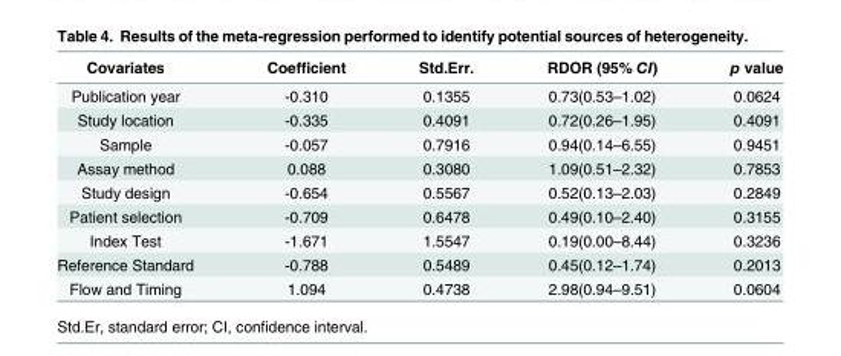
<table><thead><tr><td>Covariates</td><td>Coefficient</td><td>Std.Err.</td><td>RDOR (95% CI)</td><td>p value</td></tr></thead><tbody><tr><td>Publication year</td><td>-0.310</td><td>0.1355</td><td>0.73(0.53–1.02)</td><td>0.0624</td></tr><tr><td>Study location</td><td>-0.335</td><td>0.4091</td><td>0.72(0.26–1.95)</td><td>0.4091</td></tr><tr><td>Sample</td><td>-0.057</td><td>0.7916</td><td>0.94(0.14–6.55)</td><td>0.9451</td></tr><tr><td>Assay method</td><td>0.088</td><td>0.3080</td><td>1.09(0.51–2.32)</td><td>0.7853</td></tr><tr><td>Study design</td><td>-0.654</td><td>0.5567</td><td>0.52(0.13–2.03)</td><td>0.2849</td></tr><tr><td>Patient selection</td><td>-0.709</td><td>0.6478</td><td>0.49(0.10–2.40)</td><td>0.3155</td></tr><tr><td>Index Test</td><td>-1.671</td><td>1.5547</td><td>0.19(0.00–8.44)</td><td>0.3236</td></tr><tr><td>Reference Standard</td><td>-0.788</td><td>0.5489</td><td>0.45(0.12–1.74)</td><td>0.2013</td></tr><tr><td>Flow and Timing</td><td>1.094</td><td>0.4738</td><td>2.98(0.94–9.51)</td><td>0.0604</td></tr></tbody></table>